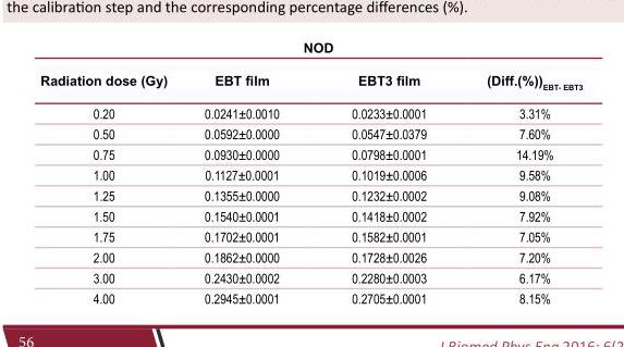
<table><thead><tr><td colspan="4">NOD</td></tr><tr><td>Radiation dose (Gy)</td><td>EBT film</td><td>EBT3 film</td><td>(Diff.(%))<sub>EBT- EBT3</sub></td></tr></thead><tbody><tr><td>0.20</td><td>0.0241±0.0010</td><td>0.0233±0.0001</td><td>3.31%</td></tr><tr><td>0.50</td><td>0.0592±0.0000</td><td>0.0547±0.0379</td><td>7.60%</td></tr><tr><td>0.75</td><td>0.0930±0.0000</td><td>0.0798±0.0001</td><td>14.19%</td></tr><tr><td>1.00</td><td>0.1127±0.0001</td><td>0.1019±0.0006</td><td>9.58%</td></tr><tr><td>1.25</td><td>0.1355±0.0000</td><td>0.1232±0.0002</td><td>9.08%</td></tr><tr><td>1.50</td><td>0.1540±0.0001</td><td>0.1418±0.0002</td><td>7.92%</td></tr><tr><td>1.75</td><td>0.1702±0.0001</td><td>0.1582±0.0001</td><td>7.05%</td></tr><tr><td>2.00</td><td>0.1862±0.0000</td><td>0.1728±0.0026</td><td>7.20%</td></tr><tr><td>3.00</td><td>0.2430±0.0002</td><td>0.2280±0.0003</td><td>6.17%</td></tr><tr><td>4.00</td><td>0.2945±0.0001</td><td>0.2705±0.0001</td><td>8.15%</td></tr></tbody></table>